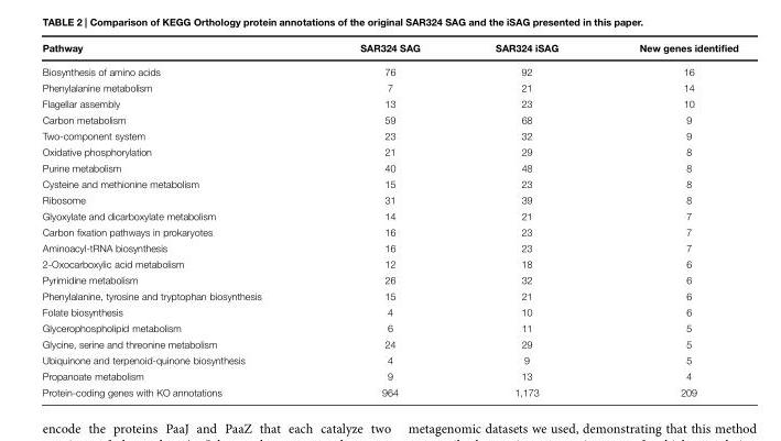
<table><thead><tr><td>Pathway</td><td>SAR324 SAG</td><td>SAR324 iSAG</td><td>New genes identified</td></tr></thead><tbody><tr><td>Biosynthesis of amino acids</td><td>76</td><td>92</td><td>16</td></tr><tr><td>Phenylalanine metabolism</td><td>7</td><td>21</td><td>14</td></tr><tr><td>Flagellar assembly</td><td>13</td><td>23</td><td>10</td></tr><tr><td>Carbon metabolism</td><td>59</td><td>68</td><td>9</td></tr><tr><td>Two-component system</td><td>23</td><td>32</td><td>9</td></tr><tr><td>Oxidative phosphorylation</td><td>21</td><td>29</td><td>8</td></tr><tr><td>Purine metabolism</td><td>40</td><td>48</td><td>8</td></tr><tr><td>Cysteine and methionine metabolism</td><td>15</td><td>23</td><td>8</td></tr><tr><td>Ribosome</td><td>31</td><td>39</td><td>8</td></tr><tr><td>Glyoxylate and dicarboxylate metabolism</td><td>14</td><td>21</td><td>7</td></tr><tr><td>Carbon fixation pathways in prokaryotes</td><td>16</td><td>23</td><td>7</td></tr><tr><td>Aminoacyl-tRNA biosynthesis</td><td>16</td><td>23</td><td>7</td></tr><tr><td>2-Oxocarboxylic acid metabolism</td><td>12</td><td>18</td><td>6</td></tr><tr><td>Pyrimidine metabolism</td><td>26</td><td>32</td><td>6</td></tr><tr><td>Phenylalanine, tyrosine and tryptophan biosynthesis</td><td>15</td><td>21</td><td>6</td></tr><tr><td>Folate biosynthesis</td><td>4</td><td>10</td><td>6</td></tr><tr><td>Glycerophospholipid metabolism</td><td>6</td><td>11</td><td>5</td></tr><tr><td>Glycine, serine and threonine metabolism</td><td>24</td><td>29</td><td>5</td></tr><tr><td>Ubiquinone and terpenoid-quinone biosynthesis</td><td>4</td><td>9</td><td>5</td></tr><tr><td>Propanoate metabolism</td><td>9</td><td>13</td><td>4</td></tr><tr><td>Protein-coding genes with KO annotations</td><td>964</td><td>1,173</td><td>209</td></tr></tbody></table>